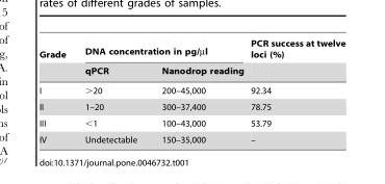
<table><thead><tr><td rowspan="2">Grade</td><td colspan="2">DNA concentration in pg/µl</td><td rowspan="2">PCR success at twelve loci (%)</td></tr><tr><td>qPCR</td><td>Nanodrop reading</td></tr></thead><tbody><tr><td>I</td><td>&gt;20</td><td>200–45,000</td><td>92.34</td></tr><tr><td>II</td><td>1–20</td><td>300–37,400</td><td>78.75</td></tr><tr><td>III</td><td>&lt;1</td><td>100–43,000</td><td>53.79</td></tr><tr><td>IV</td><td>Undetectable</td><td>150–35,000</td><td>–</td></tr></tbody></table>